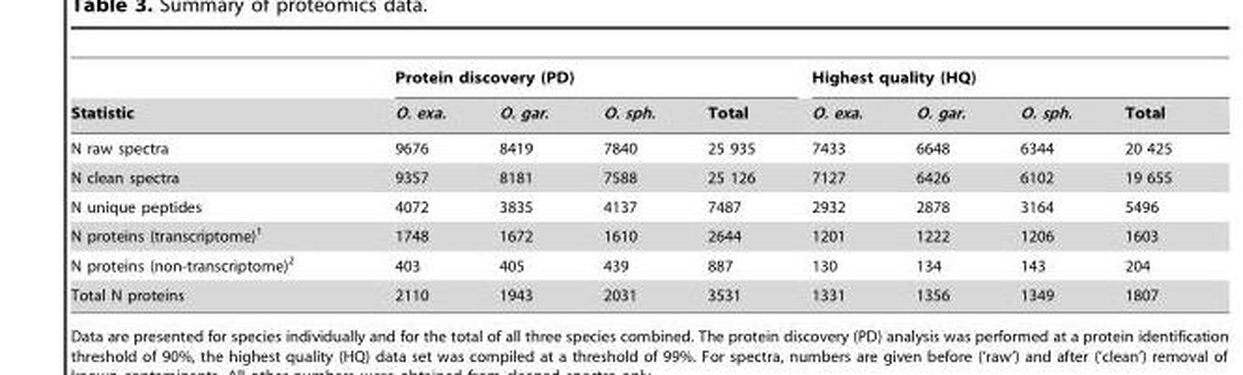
<table><thead><tr><td rowspan="2">Statistic</td><td colspan="4">Protein discovery (PD)</td><td colspan="4">Highest quality (HQ)</td></tr><tr><td>O. exa.</td><td>O. gar.</td><td>O. sph.</td><td>Total</td><td>O. exa.</td><td>O. gar.</td><td>O. sph.</td><td>Total</td></tr></thead><tbody><tr><td>N raw spectra</td><td>9676</td><td>8419</td><td>7840</td><td>25 935</td><td>7433</td><td>6648</td><td>6344</td><td>20 425</td></tr><tr><td>N clean spectra</td><td>9357</td><td>8181</td><td>7588</td><td>25 126</td><td>7127</td><td>6426</td><td>6102</td><td>19 655</td></tr><tr><td>N unique peptides</td><td>4072</td><td>3835</td><td>4137</td><td>7487</td><td>2932</td><td>2878</td><td>3164</td><td>5496</td></tr><tr><td>N proteins (transcriptome)<sup>1</sup></td><td>1748</td><td>1672</td><td>1610</td><td>2644</td><td>1201</td><td>1222</td><td>1206</td><td>1603</td></tr><tr><td>N proteins (non-transcriptome)<sup>2</sup></td><td>403</td><td>405</td><td>439</td><td>887</td><td>130</td><td>134</td><td>143</td><td>204</td></tr><tr><td>Total N proteins</td><td>2110</td><td>1943</td><td>2031</td><td>3531</td><td>1331</td><td>1356</td><td>1349</td><td>1807</td></tr></tbody></table>